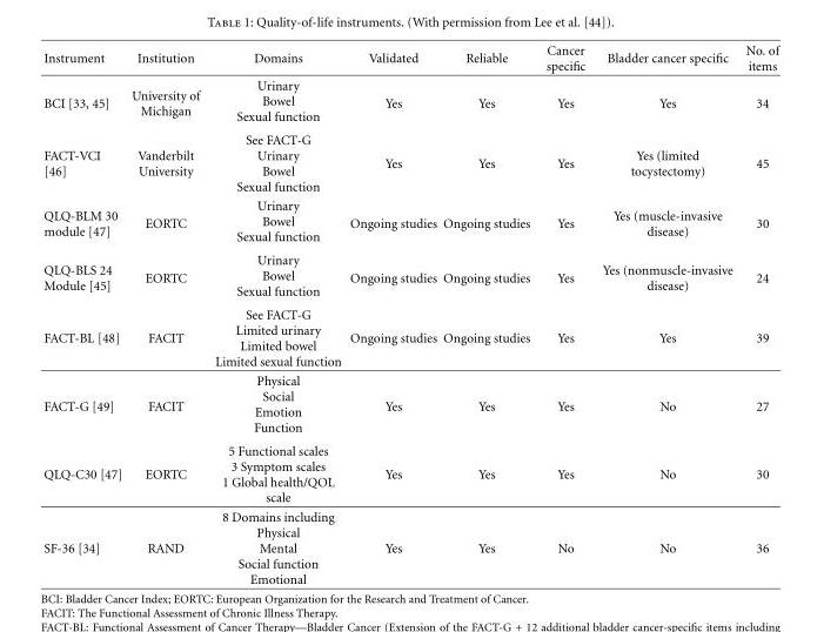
<table><thead><tr><td>Instrument</td><td>Institution</td><td>Domains</td><td>Validated</td><td>Reliable</td><td>Cancer specific</td><td>Bladder cancer specific</td><td>No. of items</td></tr></thead><tbody><tr><td>BCI [33, 45]</td><td>University of Michigan</td><td>Urinary Bowel Sexual function</td><td>Yes</td><td>Yes</td><td>Yes</td><td>Yes</td><td>34</td></tr><tr><td>FACT-VCI [46]</td><td>Vanderbilt University</td><td>See FACT-G Urinary Bowel Sexual function</td><td>Yes</td><td>Yes</td><td>Yes</td><td>Yes (limited tocystectomy)</td><td>45</td></tr><tr><td>QLQ-BLM 30 module [47]</td><td>EORTC</td><td>Urinary Bowel Sexual function</td><td>Ongoing studies</td><td>Ongoing studies</td><td>Yes</td><td>Yes (muscle-invasive disease)</td><td>30</td></tr><tr><td>QLQ-BLS 24 Module [45]</td><td>EORTC</td><td>Urinary Bowel Sexual function</td><td>Ongoing studies</td><td>Ongoing studies</td><td>Yes</td><td>Yes (nonmuscle-invasive disease)</td><td>24</td></tr><tr><td>FACT-BL [48]</td><td>FACIT</td><td>See FACT-G Limited urinary Limited bowel Limited sexual function</td><td>Ongoing studies</td><td>Ongoing studies</td><td>Yes</td><td>Yes</td><td>39</td></tr><tr><td>FACT-G [49]</td><td>FACIT</td><td>Physical Social Emotion Function</td><td>Yes</td><td>Yes</td><td>Yes</td><td>No</td><td>27</td></tr><tr><td>QLQ-C30 [47]</td><td>EORTC</td><td>5 Functional scales 3 Symptom scales 1 Global health/QOL scale</td><td>Yes</td><td>Yes</td><td>Yes</td><td>No</td><td>30</td></tr><tr><td>SF-36 [34]</td><td>RAND</td><td>8 Domains including Physical Mental Social function Emotional</td><td>Yes</td><td>Yes</td><td>No</td><td>No</td><td>36</td></tr></tbody></table>